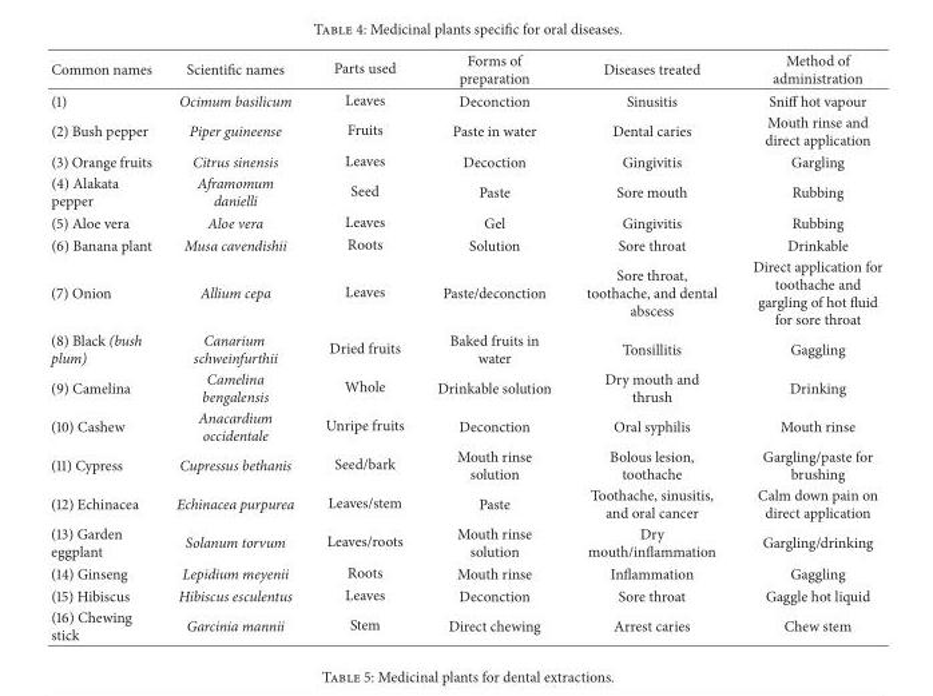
<table><thead><tr><td>Common names</td><td>Scientific names</td><td>Parts used</td><td>Forms of preparation</td><td>Diseases treated</td><td>Method of administration</td></tr></thead><tbody><tr><td>(1)</td><td>Ocimum basilicum</td><td>Leaves</td><td>Deconction</td><td>Sinusitis</td><td>Sniff hot vapour</td></tr><tr><td>(2) Bush pepper</td><td>Piper guineense</td><td>Fruits</td><td>Paste in water</td><td>Dental caries</td><td>Mouth rinse and direct application</td></tr><tr><td>(3) Orange fruits</td><td>Citrus sinensis</td><td>Leaves</td><td>Decoction</td><td>Gingivitis</td><td>Gargling</td></tr><tr><td>(4) Alakata pepper</td><td>Aframomum danielli</td><td>Seed</td><td>Paste</td><td>Sore mouth</td><td>Rubbing</td></tr><tr><td>(5) Aloe vera</td><td>Aloe vera</td><td>Leaves</td><td>Gel</td><td>Gingivitis</td><td>Rubbing</td></tr><tr><td>(6) Banana plant</td><td>Musa cavendishii</td><td>Roots</td><td>Solution</td><td>Sore throat</td><td>Drinkable</td></tr><tr><td>(7) Onion</td><td>Allium cepa</td><td>Leaves</td><td>Paste/deconction</td><td>Sore throat, toothache, and dental abscess</td><td>Direct application for toothache and gargling of hot fluid for sore throat</td></tr><tr><td>(8) Black (bush plum)</td><td>Canarium schweinfurthii</td><td>Dried fruits</td><td>Baked fruits in water</td><td>Tonsillitis</td><td>Gaggling</td></tr><tr><td>(9) Camelina</td><td>Camelina bengalensis</td><td>Whole</td><td>Drinkable solution</td><td>Dry mouth and thrush</td><td>Drinking</td></tr><tr><td>(10) Cashew</td><td>Anacardium occidentale</td><td>Unripe fruits</td><td>Deconction</td><td>Oral syphilis</td><td>Mouth rinse</td></tr><tr><td>(11) Cypress</td><td>Cupressus bethanis</td><td>Seed/bark</td><td>Mouth rinse solution</td><td>Bolous lesion, toothache</td><td>Gargling/paste for brushing</td></tr><tr><td>(12) Echinacea</td><td>Echinacea purpurea</td><td>Leaves/stem</td><td>Paste</td><td>Toothache, sinusitis, and oral cancer</td><td>Calm down pain on direct application</td></tr><tr><td>(13) Garden eggplant</td><td>Solanum torvum</td><td>Leaves/roots</td><td>Mouth rinse solution</td><td>Dry mouth/inflammation</td><td>Gargling/drinking</td></tr><tr><td>(14) Ginseng</td><td>Lepidium meyenii</td><td>Roots</td><td>Mouth rinse</td><td>Inflammation</td><td>Gaggling</td></tr><tr><td>(15) Hibiscus</td><td>Hibiscus esculentus</td><td>Leaves</td><td>Deconction</td><td>Sore throat</td><td>Gaggle hot liquid</td></tr><tr><td>(16) Chewing stick</td><td>Garcinia mannii</td><td>Stem</td><td>Direct chewing</td><td>Arrest caries</td><td>Chew stem</td></tr></tbody></table>